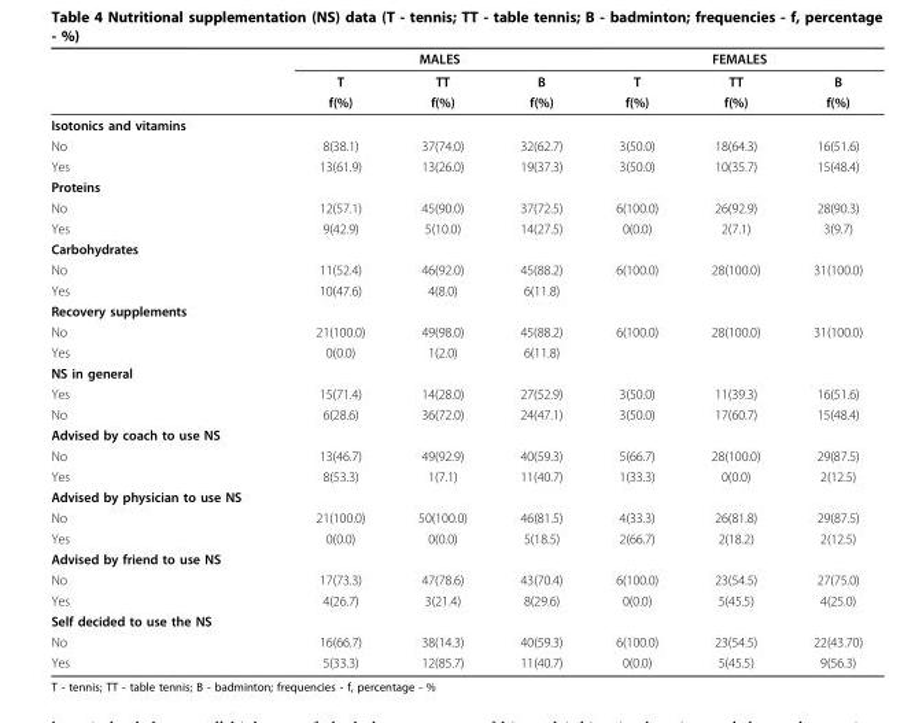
<table><thead><tr><td rowspan="3"></td><td colspan="3">MALES</td><td colspan="3">FEMALES</td></tr><tr><td rowspan="2">T f(%)</td><td rowspan="2">TT f(%)</td><td rowspan="2">B f(%)</td><td rowspan="2">T f(%)</td><td rowspan="2">TT f(%)</td><td rowspan="2">B f(%)</td></tr><tr></tr></thead><tbody><tr><td colspan="7">Isotonics and vitamins</td></tr><tr><td>No</td><td>8(38.1)</td><td>37(74.0)</td><td>32(62.7)</td><td>3(50.0)</td><td>18(64.3)</td><td>16(51.6)</td></tr><tr><td>Yes</td><td>13(61.9)</td><td>13(26.0)</td><td>19(37.3)</td><td>3(50.0)</td><td>10(35.7)</td><td>15(48.4)</td></tr><tr><td colspan="7">Proteins</td></tr><tr><td>No</td><td>12(57.1)</td><td>45(90.0)</td><td>37(72.5)</td><td>6(100.0)</td><td>26(92.9)</td><td>28(90.3)</td></tr><tr><td>Yes</td><td>9(42.9)</td><td>5(10.0)</td><td>14(27.5)</td><td>0(0.0)</td><td>2(7.1)</td><td>3(9.7)</td></tr><tr><td colspan="7">Carbohydrates</td></tr><tr><td>No</td><td>11(52.4)</td><td>46(92.0)</td><td>45(88.2)</td><td>6(100.0)</td><td>28(100.0)</td><td>31(100.0)</td></tr><tr><td>Yes</td><td>10(47.6)</td><td>4(8.0)</td><td>6(11.8)</td><td></td><td></td><td></td></tr><tr><td colspan="7">Recovery supplements</td></tr><tr><td>No</td><td>21(100.0)</td><td>49(98.0)</td><td>45(88.2)</td><td>6(100.0)</td><td>28(100.0)</td><td>31(100.0)</td></tr><tr><td>Yes</td><td>0(0.0)</td><td>1(2.0)</td><td>6(11.8)</td><td></td><td></td><td></td></tr><tr><td colspan="7">NS in general</td></tr><tr><td>Yes</td><td>15(71.4)</td><td>14(28.0)</td><td>27(52.9)</td><td>3(50.0)</td><td>11(39.3)</td><td>16(51.6)</td></tr><tr><td>No</td><td>6(28.6)</td><td>36(72.0)</td><td>24(47.1)</td><td>3(50.0)</td><td>17(60.7)</td><td>15(48.4)</td></tr><tr><td colspan="7">Advised by coach to use NS</td></tr><tr><td>No</td><td>13(46.7)</td><td>49(92.9)</td><td>40(59.3)</td><td>5(66.7)</td><td>28(100.0)</td><td>29(87.5)</td></tr><tr><td>Yes</td><td>8(53.3)</td><td>1(7.1)</td><td>11(40.7)</td><td>1(33.3)</td><td>0(0.0)</td><td>2(12.5)</td></tr><tr><td colspan="7">Advised by physician to use NS</td></tr><tr><td>No</td><td>21(100.0)</td><td>50(100.0)</td><td>46(81.5)</td><td>4(33.3)</td><td>26(81.8)</td><td>29(87.5)</td></tr><tr><td>Yes</td><td>0(0.0)</td><td>0(0.0)</td><td>5(18.5)</td><td>2(66.7)</td><td>2(18.2)</td><td>2(12.5)</td></tr><tr><td colspan="7">Advised by friend to use NS</td></tr><tr><td>No</td><td>17(73.3)</td><td>47(78.6)</td><td>43(70.4)</td><td>6(100.0)</td><td>23(54.5)</td><td>27(75.0)</td></tr><tr><td>Yes</td><td>4(26.7)</td><td>3(21.4)</td><td>8(29.6)</td><td>0(0.0)</td><td>5(45.5)</td><td>4(25.0)</td></tr><tr><td colspan="7">Self decided to use the NS</td></tr><tr><td>No</td><td>16(66.7)</td><td>38(14.3)</td><td>40(59.3)</td><td>6(100.0)</td><td>23(54.5)</td><td>22(43.70)</td></tr><tr><td>Yes</td><td>5(33.3)</td><td>12(85.7)</td><td>11(40.7)</td><td>0(0.0)</td><td>5(45.5)</td><td>9(56.3)</td></tr></tbody></table>